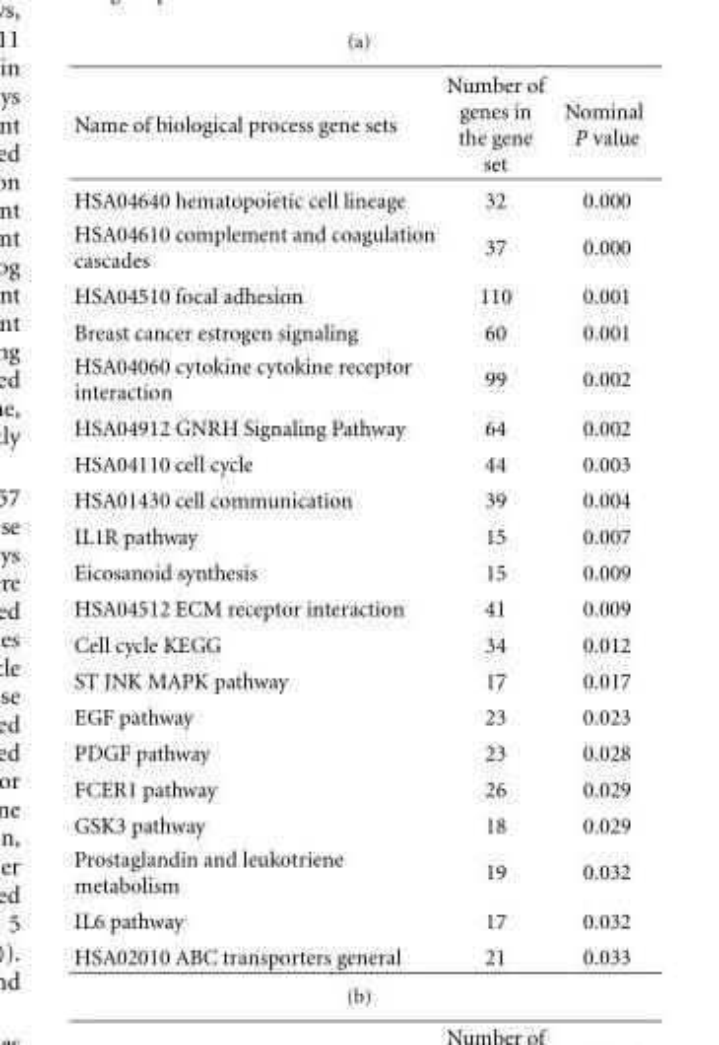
<table><thead><tr><td>Name of biological process gene sets</td><td>Number of genes in the gene set</td><td>Nominal P value</td></tr></thead><tbody><tr><td>HSA04640 hematopoietic cell lineage</td><td>32</td><td>0.000</td></tr><tr><td>HSA04610 complement and coagulation cascades</td><td>37</td><td>0.000</td></tr><tr><td>HSA04510 focal adhesion</td><td>110</td><td>0.001</td></tr><tr><td>Breast cancer estrogen signaling</td><td>60</td><td>0.001</td></tr><tr><td>HSA04060 cytokine cytokine receptor interaction</td><td>99</td><td>0.002</td></tr><tr><td>HSA04912 GNRH Signaling Pathway</td><td>64</td><td>0.002</td></tr><tr><td>HSA04110 cell cycle</td><td>44</td><td>0.003</td></tr><tr><td>HSA01430 cell communication</td><td>39</td><td>0.004</td></tr><tr><td>IL1R pathway</td><td>15</td><td>0.007</td></tr><tr><td>Eicosanoid synthesis</td><td>15</td><td>0.009</td></tr><tr><td>HSA04512 ECM receptor interaction</td><td>41</td><td>0.009</td></tr><tr><td>Cell cycle KEGG</td><td>34</td><td>0.012</td></tr><tr><td>ST JNK MAPK pathway</td><td>17</td><td>0.017</td></tr><tr><td>EGF pathway</td><td>23</td><td>0.023</td></tr><tr><td>PDGF pathway</td><td>23</td><td>0.028</td></tr><tr><td>FCER1 pathway</td><td>26</td><td>0.029</td></tr><tr><td>GSK3 pathway</td><td>18</td><td>0.029</td></tr><tr><td>Prostaglandin and leukotriene metabolism</td><td>19</td><td>0.032</td></tr><tr><td>IL6 pathway</td><td>17</td><td>0.032</td></tr><tr><td>HSA02010 ABC transporters general</td><td>21</td><td>0.033</td></tr></tbody></table>